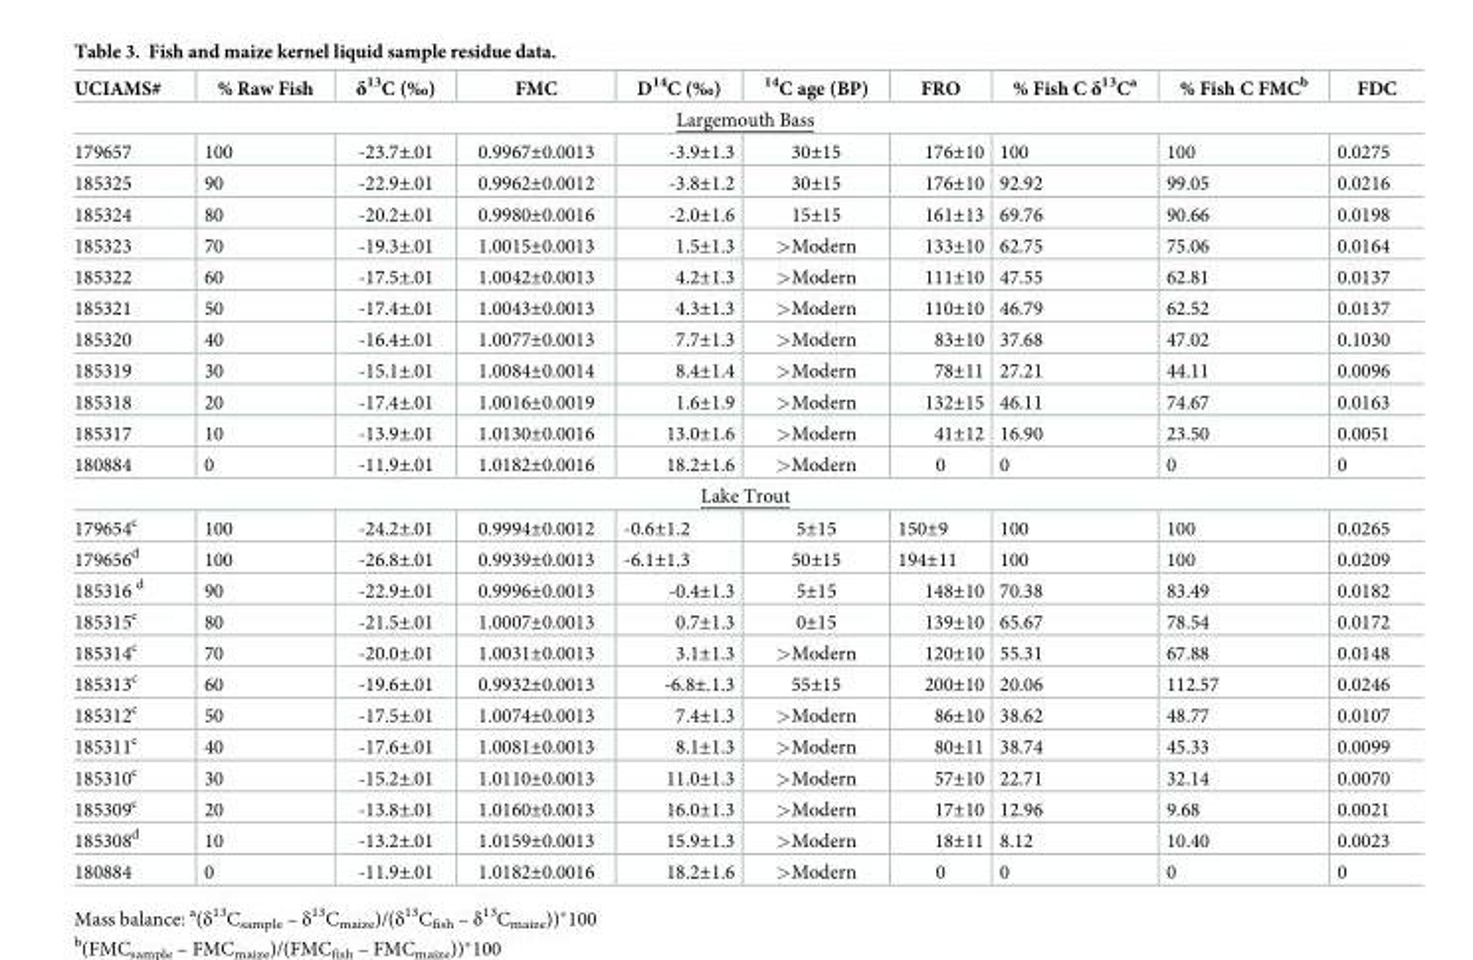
<table><thead><tr><td>UCIAMS#</td><td>% Raw Fish</td><td>δ<sup>13</sup>C (‰)</td><td>FMC</td><td>D<sup>14</sup>C (‰)</td><td><sup>14</sup>C age (BP)</td><td>FRO</td><td>% Fish C δ<sup>13</sup>C<sup>a</sup></td><td>% Fish C FMC<sup>b</sup></td><td>FDC</td></tr></thead><tbody><tr><td colspan="10">Largemouth Bass</td></tr><tr><td>179657</td><td>100</td><td>-23.7±.01</td><td>0.9967±0.0013</td><td>-3.9±1.3</td><td>30±15</td><td>176±10</td><td>100</td><td>100</td><td>0.0275</td></tr><tr><td>185325</td><td>90</td><td>-22.9±.01</td><td>0.9962±0.0012</td><td>-3.8±1.2</td><td>30±15</td><td>176±10</td><td>92.92</td><td>99.05</td><td>0.0216</td></tr><tr><td>185324</td><td>80</td><td>-20.2±.01</td><td>0.9980±0.0016</td><td>-2.0±1.6</td><td>15±15</td><td>161±13</td><td>69.76</td><td>90.66</td><td>0.0198</td></tr><tr><td>185323</td><td>70</td><td>-19.3±.01</td><td>1.0015±0.0013</td><td>1.5±1.3</td><td>&gt;Modern</td><td>133±10</td><td>62.75</td><td>75.06</td><td>0.0164</td></tr><tr><td>185322</td><td>60</td><td>-17.5±.01</td><td>1.0042±0.0013</td><td>4.2±1.3</td><td>&gt;Modern</td><td>111±10</td><td>47.55</td><td>62.81</td><td>0.0137</td></tr><tr><td>185321</td><td>50</td><td>-17.4±.01</td><td>1.0043±0.0013</td><td>4.3±1.3</td><td>&gt;Modern</td><td>110±10</td><td>46.79</td><td>62.52</td><td>0.0137</td></tr><tr><td>185320</td><td>40</td><td>-16.4±.01</td><td>1.0077±0.0013</td><td>7.7±1.3</td><td>&gt;Modern</td><td>83±10</td><td>37.68</td><td>47.02</td><td>0.1030</td></tr><tr><td>185319</td><td>30</td><td>-15.1±.01</td><td>1.0084±0.0014</td><td>8.4±1.4</td><td>&gt;Modern</td><td>78±11</td><td>27.21</td><td>44.11</td><td>0.0096</td></tr><tr><td>185318</td><td>20</td><td>-17.4±.01</td><td>1.0016±0.0019</td><td>1.6±1.9</td><td>&gt;Modern</td><td>132±15</td><td>46.11</td><td>74.67</td><td>0.0163</td></tr><tr><td>185317</td><td>10</td><td>-13.9±.01</td><td>1.0130±0.0016</td><td>13.0±1.6</td><td>&gt;Modern</td><td>41±12</td><td>16.90</td><td>23.50</td><td>0.0051</td></tr><tr><td>180884</td><td>0</td><td>-11.9±.01</td><td>1.0182±0.0016</td><td>18.2±1.6</td><td>&gt;Modern</td><td>0</td><td>0</td><td>0</td><td>0</td></tr><tr><td colspan="10">Lake Trout</td></tr><tr><td>179654<sup>c</sup></td><td>100</td><td>-24.2±.01</td><td>0.9994±0.0012</td><td>-0.6±1.2</td><td>5±15</td><td>150±9</td><td>100</td><td>100</td><td>0.0265</td></tr><tr><td>179656<sup>d</sup></td><td>100</td><td>-26.8±.01</td><td>0.9939±0.0013</td><td>-6.1±1.3</td><td>50±15</td><td>194±11</td><td>100</td><td>100</td><td>0.0209</td></tr><tr><td>185316 <sup>d</sup></td><td>90</td><td>-22.9±.01</td><td>0.9996±0.0013</td><td>-0.4±1.3</td><td>5±15</td><td>148±10</td><td>70.38</td><td>83.49</td><td>0.0182</td></tr><tr><td>185315<sup>c</sup></td><td>80</td><td>-21.5±.01</td><td>1.0007±0.0013</td><td>0.7±1.3</td><td>0±15</td><td>139±10</td><td>65.67</td><td>78.54</td><td>0.0172</td></tr><tr><td>185314<sup>c</sup></td><td>70</td><td>-20.0±.01</td><td>1.0031±0.0013</td><td>3.1±1.3</td><td>&gt;Modern</td><td>120±10</td><td>55.31</td><td>67.88</td><td>0.0148</td></tr><tr><td>185313<sup>c</sup></td><td>60</td><td>-19.6±.01</td><td>0.9932±0.0013</td><td>-6.8±.1.3</td><td>55±15</td><td>200±10</td><td>20.06</td><td>112.57</td><td>0.0246</td></tr><tr><td>185312<sup>c</sup></td><td>50</td><td>-17.5±.01</td><td>1.0074±0.0013</td><td>7.4±1.3</td><td>&gt;Modern</td><td>86±10</td><td>38.62</td><td>48.77</td><td>0.0107</td></tr><tr><td>185311<sup>c</sup></td><td>40</td><td>-17.6±.01</td><td>1.0081±0.0013</td><td>8.1±1.3</td><td>&gt;Modern</td><td>80±11</td><td>38.74</td><td>45.33</td><td>0.0099</td></tr><tr><td>185310<sup>c</sup></td><td>30</td><td>-15.2±.01</td><td>1.0110±0.0013</td><td>11.0±1.3</td><td>&gt;Modern</td><td>57±10</td><td>22.71</td><td>32.14</td><td>0.0070</td></tr><tr><td>185309<sup>c</sup></td><td>20</td><td>-13.8±.01</td><td>1.0160±0.0013</td><td>16.0±1.3</td><td>&gt;Modern</td><td>17±10</td><td>12.96</td><td>9.68</td><td>0.0021</td></tr><tr><td>185308<sup>d</sup></td><td>10</td><td>-13.2±.01</td><td>1.0159±0.0013</td><td>15.9±1.3</td><td>&gt;Modern</td><td>18±11</td><td>8.12</td><td>10.40</td><td>0.0023</td></tr><tr><td>180884</td><td>0</td><td>-11.9±.01</td><td>1.0182±0.0016</td><td>18.2±1.6</td><td>&gt;Modern</td><td>0</td><td>0</td><td>0</td><td>0</td></tr></tbody></table>